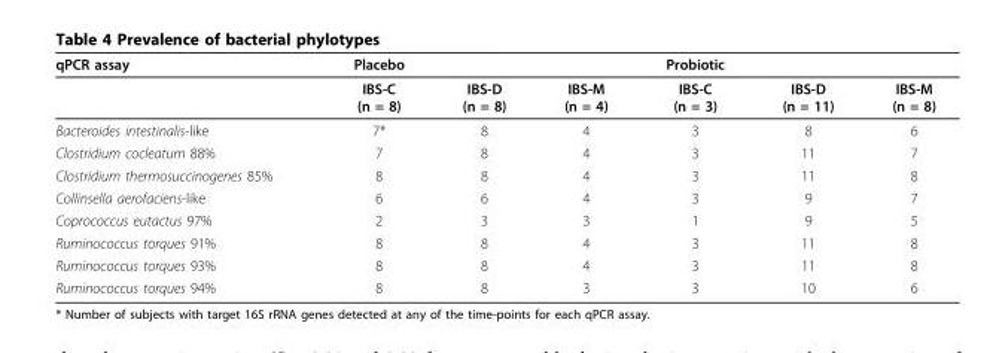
<table><thead><tr><td>qPCR assay</td><td>Placebo</td><td></td><td></td><td>Probiotic</td><td></td><td></td></tr></thead><tbody><tr><td></td><td>IBS-C (n = 8)</td><td>IBS-D (n = 8)</td><td>IBS-M (n = 4)</td><td>IBS-C (n = 3)</td><td>IBS-D (n = 11)</td><td>IBS-M (n = 8)</td></tr><tr><td>Bacteroides intestinalis-like</td><td>7*</td><td>8</td><td>4</td><td>3</td><td>8</td><td>6</td></tr><tr><td>Clostridium cocleatum 88%</td><td>7</td><td>8</td><td>4</td><td>3</td><td>11</td><td>7</td></tr><tr><td>Clostridium thermosuccinogenes 85%</td><td>8</td><td>8</td><td>4</td><td>3</td><td>11</td><td>8</td></tr><tr><td>Collinsella aerofaciens-like</td><td>6</td><td>6</td><td>4</td><td>3</td><td>9</td><td>7</td></tr><tr><td>Coprococcus eutactus 97%</td><td>2</td><td>3</td><td>3</td><td>1</td><td>9</td><td>5</td></tr><tr><td>Ruminococcus torques 91%</td><td>8</td><td>8</td><td>4</td><td>3</td><td>11</td><td>8</td></tr><tr><td>Ruminococcus torques 93%</td><td>8</td><td>8</td><td>4</td><td>3</td><td>11</td><td>8</td></tr><tr><td>Ruminococcus torques 94%</td><td>8</td><td>8</td><td>3</td><td>3</td><td>10</td><td>6</td></tr></tbody></table>